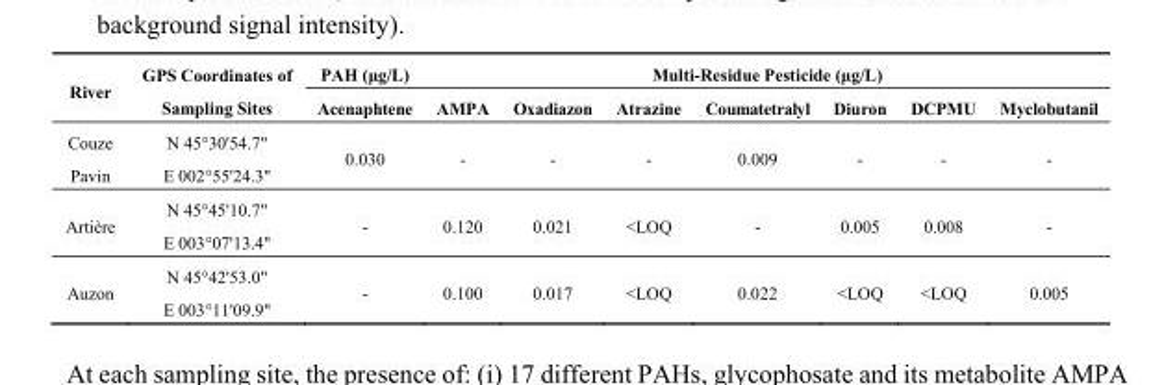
<table><thead><tr><td rowspan="2">River</td><td rowspan="2">GPS Coordinates of Sampling Sites</td><td rowspan="2">PAH (μg/L) Acenaphtene</td><td colspan="7">Multi-Residue Pesticide (μg/L)</td></tr><tr><td>AMPA</td><td>Oxadiazon</td><td>Atrazine</td><td>Coumatetralyl</td><td>Diuron</td><td>DCPMU</td><td>Myclobutanil</td></tr></thead><tbody><tr><td>Couze Pavin</td><td>N 45°30&#x27;54.7&quot; E 002°55&#x27;24.3&quot;</td><td>0.030</td><td>-</td><td>-</td><td>-</td><td>0.009</td><td>-</td><td>-</td><td>-</td></tr><tr><td>Artière</td><td>N 45°45&#x27;10.7&quot; E 003°07&#x27;13.4&quot;</td><td>-</td><td>0.120</td><td>0.021</td><td>&lt;LOQ</td><td>-</td><td>0.005</td><td>0.008</td><td>-</td></tr><tr><td>Auzon</td><td>N 45°42&#x27;53.0&quot; E 003°11&#x27;09.9&quot;</td><td>-</td><td>0.100</td><td>0.017</td><td>&lt;LOQ</td><td>0.022</td><td>&lt;LOQ</td><td>&lt;LOQ</td><td>0.005</td></tr></tbody></table>